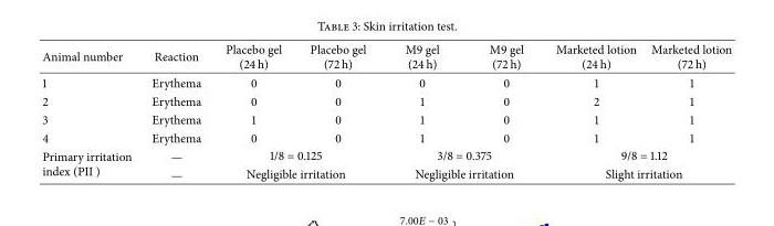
<table><thead><tr><td>Animal number</td><td>Reaction</td><td>Placebo gel (24 h)</td><td>Placebo gel (72 h)</td><td>M9 gel (24 h)</td><td>M9 gel (72 h)</td><td>Marketed lotion (24 h)</td><td>Marketed lotion (72 h)</td></tr></thead><tbody><tr><td>1</td><td>Erythema</td><td>0</td><td>0</td><td>0</td><td>0</td><td>1</td><td>1</td></tr><tr><td>2</td><td>Erythema</td><td>0</td><td>0</td><td>1</td><td>0</td><td>2</td><td>1</td></tr><tr><td>3</td><td>Erythema</td><td>1</td><td>0</td><td>1</td><td>0</td><td>1</td><td>1</td></tr><tr><td>4</td><td>Erythema</td><td>0</td><td>0</td><td>1</td><td>0</td><td>1</td><td>1</td></tr><tr><td rowspan="2">Primary irritation index (PII )</td><td>—</td><td colspan="2">1/8 = 0.125</td><td colspan="2">3/8 = 0.375</td><td colspan="2">9/8 = 1.12</td></tr><tr><td>—</td><td colspan="2">Negligible irritation</td><td colspan="2">Negligible irritation</td><td colspan="2">Slight irritation</td></tr></tbody></table>